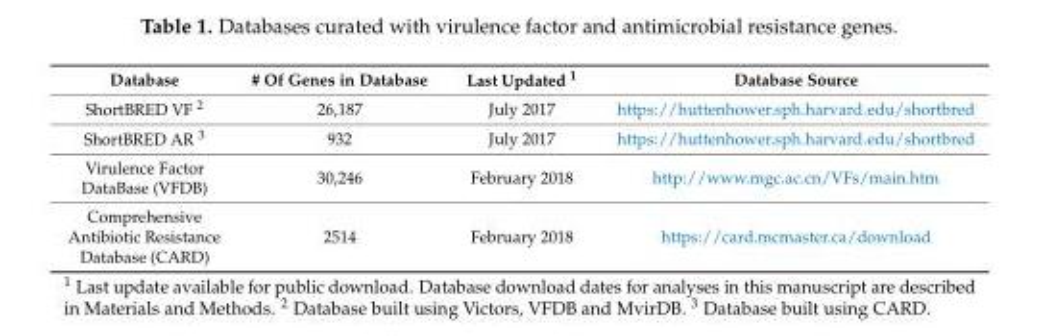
<table><thead><tr><td>Database</td><td># Of Genes in Database</td><td>Last Updated <sup>1</sup></td><td>Database Source</td></tr></thead><tbody><tr><td>ShortBRED VF <sup>2</sup></td><td>26,187</td><td>July 2017</td><td>https://huttenhower.sph.harvard.edu/shortbred</td></tr><tr><td>ShortBRED AR <sup>3</sup></td><td>932</td><td>July 2017</td><td>https://huttenhower.sph.harvard.edu/shortbred</td></tr><tr><td>Virulence Factor DataBase (VFDB)</td><td>30,246</td><td>February 2018</td><td>http://www.mgc.ac.cn/VFs/main.htm</td></tr><tr><td>Comprehensive Antibiotic Resistance Database (CARD)</td><td>2514</td><td>February 2018</td><td>https://card.mcmaster.ca/download</td></tr></tbody></table>